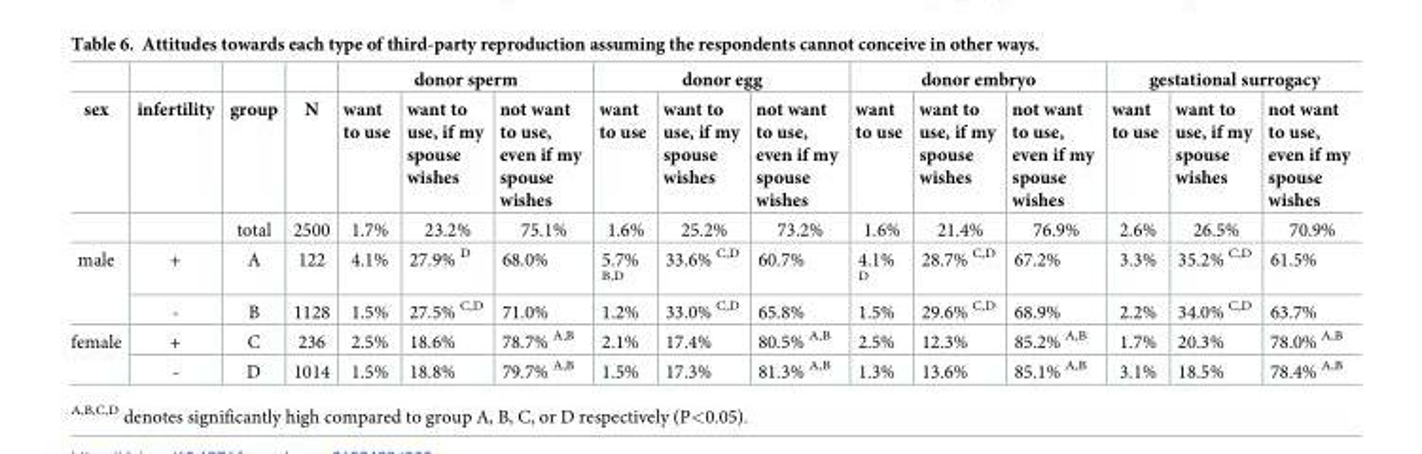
<table><thead><tr><td rowspan="2">sex</td><td rowspan="2">infertility</td><td rowspan="2">group</td><td rowspan="2">N</td><td colspan="3">donor sperm</td><td colspan="3">donor egg</td><td colspan="3">donor embryo</td><td colspan="3">gestational surrogacy</td></tr><tr><td>want to use</td><td>want to use, if my spouse wishes</td><td>not want to use, even if my spouse wishes</td><td>want to use</td><td>want to use, if my spouse wishes</td><td>not want to use, even if my spouse wishes</td><td>want to use</td><td>want to use, if my spouse wishes</td><td>not want to use, even if my spouse wishes</td><td>want to use</td><td>want to use, if my spouse wishes</td><td>not want to use, even if my spouse wishes</td></tr></thead><tbody><tr><td></td><td></td><td>total</td><td>2500</td><td>1.7%</td><td>23.2%</td><td>75.1%</td><td>1.6%</td><td>25.2%</td><td>73.2%</td><td>1.6%</td><td>21.4%</td><td>76.9%</td><td>2.6%</td><td>26.5%</td><td>70.9%</td></tr><tr><td rowspan="2">male</td><td>+</td><td>A</td><td>122</td><td>4.1%</td><td>27.9% <sup>D</sup></td><td>68.0%</td><td>5.7% <sup>B,D</sup></td><td>33.6% <sup>C,D</sup></td><td>60.7%</td><td>4.1% <sup>D</sup></td><td>28.7% <sup>C,D</sup></td><td>67.2%</td><td>3.3%</td><td>35.2% <sup>C,D</sup></td><td>61.5%</td></tr><tr><td>-</td><td>B</td><td>1128</td><td>1.5%</td><td>27.5% <sup>C,D</sup></td><td>71.0%</td><td>1.2%</td><td>33.0% <sup>C,D</sup></td><td>65.8%</td><td>1.5%</td><td>29.6% <sup>C,D</sup></td><td>68.9%</td><td>2.2%</td><td>34.0% <sup>C,D</sup></td><td>63.7%</td></tr><tr><td rowspan="2">female</td><td>+</td><td>C</td><td>236</td><td>2.5%</td><td>18.6%</td><td>78.7% <sup>A,B</sup></td><td>2.1%</td><td>17.4%</td><td>80.5% <sup>A,B</sup></td><td>2.5%</td><td>12.3%</td><td>85.2% <sup>A,B</sup></td><td>1.7%</td><td>20.3%</td><td>78.0% <sup>A,B</sup></td></tr><tr><td>-</td><td>D</td><td>1014</td><td>1.5%</td><td>18.8%</td><td>79.7% <sup>A,B</sup></td><td>1.5%</td><td>17.3%</td><td>81.3% <sup>A,B</sup></td><td>1.3%</td><td>13.6%</td><td>85.1% <sup>A,B</sup></td><td>3.1%</td><td>18.5%</td><td>78.4% <sup>A,B</sup></td></tr></tbody></table>